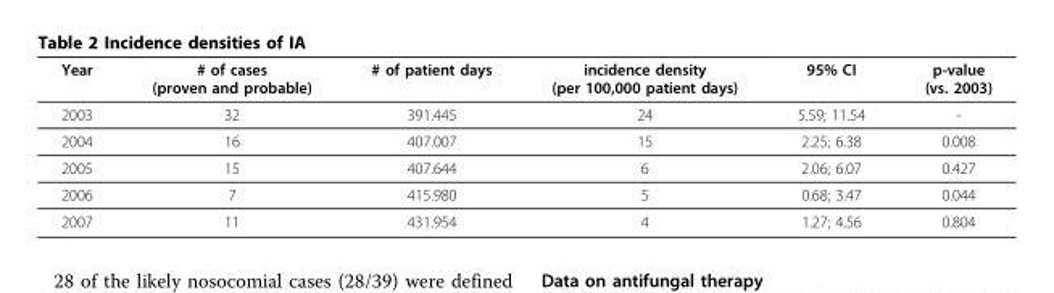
<table><thead><tr><td>Year</td><td># of cases (proven and probable)</td><td># of patient days</td><td>incidence density (per 100,000 patient days)</td><td>95% CI</td><td>p-value (vs. 2003)</td></tr></thead><tbody><tr><td>2003</td><td>32</td><td>391.445</td><td>24</td><td>5.59; 11.54</td><td>-</td></tr><tr><td>2004</td><td>16</td><td>407.007</td><td>15</td><td>2.25; 6.38</td><td>0.008</td></tr><tr><td>2005</td><td>15</td><td>407.644</td><td>6</td><td>2.06; 6.07</td><td>0.427</td></tr><tr><td>2006</td><td>7</td><td>415.980</td><td>5</td><td>0.68; 3.47</td><td>0.044</td></tr><tr><td>2007</td><td>11</td><td>431.954</td><td>4</td><td>1.27; 4.56</td><td>0.804</td></tr></tbody></table>